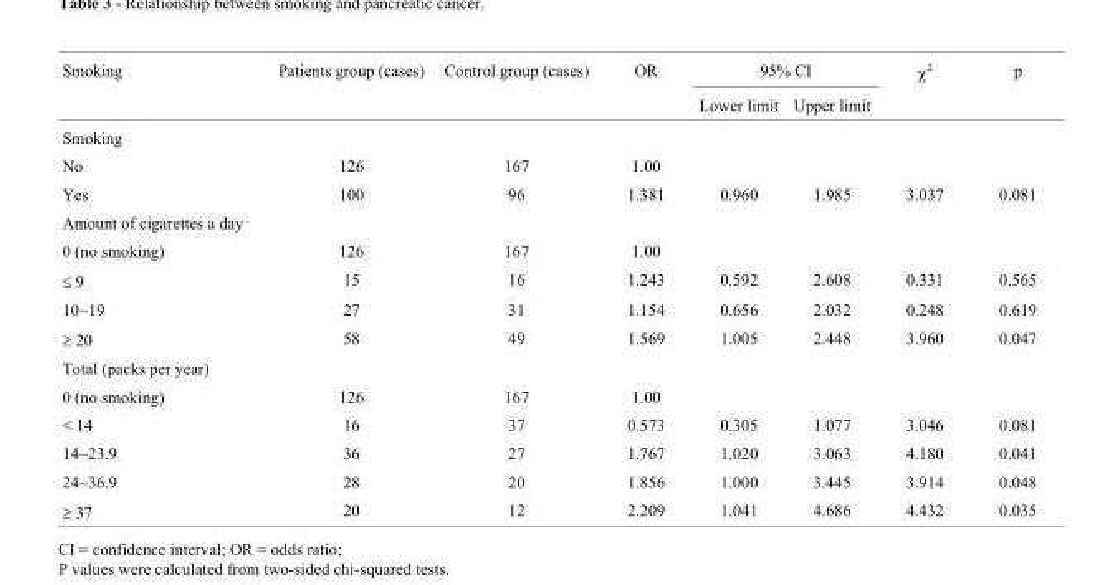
<table><thead><tr><td rowspan="2">Smoking</td><td rowspan="2">Patients group (cases)</td><td rowspan="2">Control group (cases)</td><td rowspan="2">OR</td><td colspan="2">95% CI</td><td rowspan="2">χ<sup>2</sup></td><td rowspan="2">p</td></tr><tr><td>Lower limit</td><td>Upper limit</td></tr></thead><tbody><tr><td colspan="8">Smoking</td></tr><tr><td>No</td><td>126</td><td>167</td><td>1.00</td><td></td><td></td><td></td><td></td></tr><tr><td>Yes</td><td>100</td><td>96</td><td>1.381</td><td>0.960</td><td>1.985</td><td>3.037</td><td>0.081</td></tr><tr><td colspan="8">Amount of cigarettes a day</td></tr><tr><td>0 (no smoking)</td><td>126</td><td>167</td><td>1.00</td><td></td><td></td><td></td><td></td></tr><tr><td>≤ 9</td><td>15</td><td>16</td><td>1.243</td><td>0.592</td><td>2.608</td><td>0.331</td><td>0.565</td></tr><tr><td>10~19</td><td>27</td><td>31</td><td>1.154</td><td>0.656</td><td>2.032</td><td>0.248</td><td>0.619</td></tr><tr><td>≥ 20</td><td>58</td><td>49</td><td>1.569</td><td>1.005</td><td>2.448</td><td>3.960</td><td>0.047</td></tr><tr><td colspan="8">Total (packs per year)</td></tr><tr><td>0 (no smoking)</td><td>126</td><td>167</td><td>1.00</td><td></td><td></td><td></td><td></td></tr><tr><td>&lt; 14</td><td>16</td><td>37</td><td>0.573</td><td>0.305</td><td>1.077</td><td>3.046</td><td>0.081</td></tr><tr><td>14~23.9</td><td>36</td><td>27</td><td>1.767</td><td>1.020</td><td>3.063</td><td>4.180</td><td>0.041</td></tr><tr><td>24~36.9</td><td>28</td><td>20</td><td>1.856</td><td>1.000</td><td>3.445</td><td>3.914</td><td>0.048</td></tr><tr><td>≥ 37</td><td>20</td><td>12</td><td>2.209</td><td>1.041</td><td>4.686</td><td>4.432</td><td>0.035</td></tr></tbody></table>